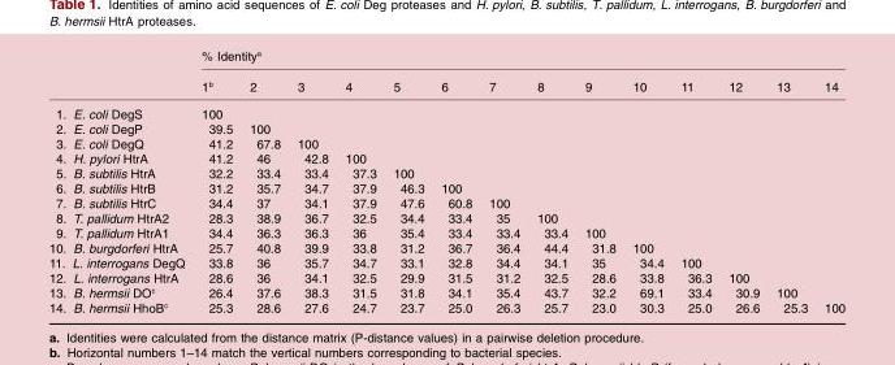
<table><thead><tr><td rowspan="2"></td><td colspan="14">% Identity<sup>a</sup></td></tr><tr><td>1<sup>b</sup></td><td>2</td><td>3</td><td>4</td><td>5</td><td>6</td><td>7</td><td>8</td><td>9</td><td>10</td><td>11</td><td>12</td><td>13</td><td>14</td></tr></thead><tbody><tr><td>1. E. coli DegS</td><td>100</td><td></td><td></td><td></td><td></td><td></td><td></td><td></td><td></td><td></td><td></td><td></td><td></td><td></td></tr><tr><td>2. E. coli DegP</td><td>39.5</td><td>100</td><td></td><td></td><td></td><td></td><td></td><td></td><td></td><td></td><td></td><td></td><td></td><td></td></tr><tr><td>3. E. coli DegQ</td><td>41.2</td><td>67.8</td><td>100</td><td></td><td></td><td></td><td></td><td></td><td></td><td></td><td></td><td></td><td></td><td></td></tr><tr><td>4. H. pylori HtrA</td><td>41.2</td><td>46</td><td>42.8</td><td>100</td><td></td><td></td><td></td><td></td><td></td><td></td><td></td><td></td><td></td><td></td></tr><tr><td>5. B. subtilis HtrA</td><td>32.2</td><td>33.4</td><td>33.4</td><td>37.3</td><td>100</td><td></td><td></td><td></td><td></td><td></td><td></td><td></td><td></td><td></td></tr><tr><td>6. B. subtilis HtrB</td><td>31.2</td><td>35.7</td><td>34.7</td><td>37.9</td><td>46.3</td><td>100</td><td></td><td></td><td></td><td></td><td></td><td></td><td></td><td></td></tr><tr><td>7. B. subtilis HtrC</td><td>34.4</td><td>37</td><td>34.1</td><td>37.9</td><td>47.6</td><td>60.8</td><td>100</td><td></td><td></td><td></td><td></td><td></td><td></td><td></td></tr><tr><td>8. T. pallidum HtrA2</td><td>28.3</td><td>38.9</td><td>36.7</td><td>32.5</td><td>34.4</td><td>33.4</td><td>35</td><td>100</td><td></td><td></td><td></td><td></td><td></td><td></td></tr><tr><td>9. T. pallidum HtrA1</td><td>34.4</td><td>36.3</td><td>36.3</td><td>36</td><td>35.4</td><td>33.4</td><td>33.4</td><td>33.4</td><td>100</td><td></td><td></td><td></td><td></td><td></td></tr><tr><td>10. B. burgdorferi HtrA</td><td>25.7</td><td>40.8</td><td>39.9</td><td>33.8</td><td>31.2</td><td>36.7</td><td>36.4</td><td>44.4</td><td>31.8</td><td>100</td><td></td><td></td><td></td><td></td></tr><tr><td>11. L. interrogans DegQ</td><td>33.8</td><td>36</td><td>35.7</td><td>34.7</td><td>33.1</td><td>32.8</td><td>34.4</td><td>34.1</td><td>35</td><td>34.4</td><td>100</td><td></td><td></td><td></td></tr><tr><td>12. L. interrogans HtrA</td><td>28.6</td><td>36</td><td>34.1</td><td>32.5</td><td>29.9</td><td>31.5</td><td>31.2</td><td>32.5</td><td>28.6</td><td>33.8</td><td>36.3</td><td>100</td><td></td><td></td></tr><tr><td>13. B. hermsii DO<sup>c</sup></td><td>26.4</td><td>37.6</td><td>38.3</td><td>31.5</td><td>31.8</td><td>34.1</td><td>35.4</td><td>43.7</td><td>32.2</td><td>69.1</td><td>33.4</td><td>30.9</td><td>100</td><td></td></tr><tr><td>14. B. hermsii HhoB<sup>c</sup></td><td>25.3</td><td>28.6</td><td>27.6</td><td>24.7</td><td>23.7</td><td>25.0</td><td>26.3</td><td>25.7</td><td>23.0</td><td>30.3</td><td>25.0</td><td>26.6</td><td>25.3</td><td>100</td></tr></tbody></table>